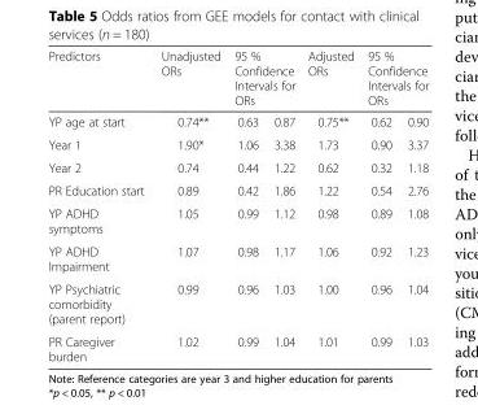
<table><thead><tr><td rowspan="2">Predictors YP age at start</td><td rowspan="2">Unadjusted ORs 0.74**</td><td colspan="2">95 % Confidence Intervals for ORs</td><td rowspan="2">Adjusted ORs 0.75**</td><td colspan="2">95 % Confidence Intervals for ORs</td></tr><tr><td>0.63</td><td>0.87</td><td>0.62</td><td>0.90</td></tr></thead><tbody><tr><td>Year 1</td><td>1.90*</td><td>1.06</td><td>3.38</td><td>1.73</td><td>0.90</td><td>3.37</td></tr><tr><td>Year 2</td><td>0.74</td><td>0.44</td><td>1.22</td><td>0.62</td><td>0.32</td><td>1.18</td></tr><tr><td>PR Education start</td><td>0.89</td><td>0.42</td><td>1.86</td><td>1.22</td><td>0.54</td><td>2.76</td></tr><tr><td>YP ADHD symptoms</td><td>1.05</td><td>0.99</td><td>1.12</td><td>0.98</td><td>0.89</td><td>1.08</td></tr><tr><td>YP ADHD Impairment</td><td>1.07</td><td>0.98</td><td>1.17</td><td>1.06</td><td>0.92</td><td>1.23</td></tr><tr><td>YP Psychiatric comorbidity (parent report)</td><td>0.99</td><td>0.96</td><td>1.03</td><td>1.00</td><td>0.96</td><td>1.04</td></tr><tr><td>PR Caregiver burden</td><td>1.02</td><td>0.99</td><td>1.04</td><td>1.01</td><td>0.99</td><td>1.03</td></tr></tbody></table>